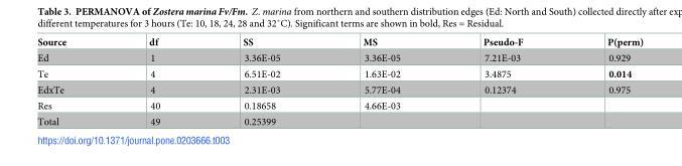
<table><thead><tr><td>Source</td><td>df</td><td>SS</td><td>MS</td><td>Pseudo-F</td><td>P(perm)</td></tr></thead><tbody><tr><td>Ed</td><td>1</td><td>3.36E-05</td><td>3.36E-05</td><td>7.21E-03</td><td>0.929</td></tr><tr><td>Te</td><td>4</td><td>6.51E-02</td><td>1.63E-02</td><td>3.4875</td><td>0.014</td></tr><tr><td>EdxTe</td><td>4</td><td>2.31E-03</td><td>5.77E-04</td><td>0.12374</td><td>0.975</td></tr><tr><td>Res</td><td>40</td><td>0.18658</td><td>4.66E-03</td><td></td><td></td></tr><tr><td>Total</td><td>49</td><td>0.25399</td><td></td><td></td><td></td></tr></tbody></table>